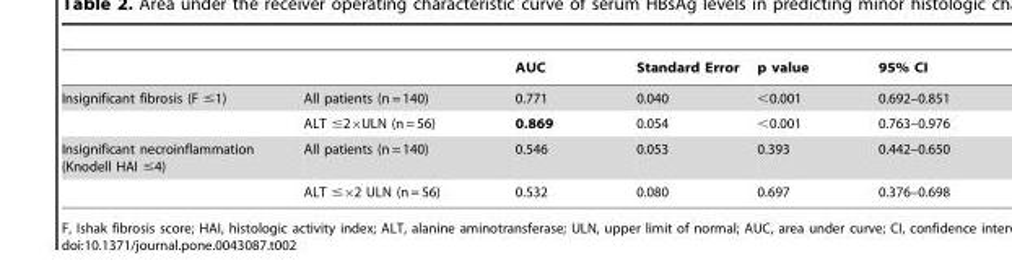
<table><thead><tr><td></td><td></td><td>AUC</td><td>Standard Error</td><td>p value</td><td>95% CI</td></tr></thead><tbody><tr><td rowspan="2">Insignificant fibrosis (F ≤1)</td><td>All patients (n = 140)</td><td>0.771</td><td>0.040</td><td>&lt;0.001</td><td>0.692–0.851</td></tr><tr><td>ALT ≤2×ULN (n = 56)</td><td>0.869</td><td>0.054</td><td>&lt;0.001</td><td>0.763–0.976</td></tr><tr><td rowspan="2">Insignificant necroinflammation (Knodell HAI ≤4)</td><td>All patients (n = 140)</td><td>0.546</td><td>0.053</td><td>0.393</td><td>0.442–0.650</td></tr><tr><td>ALT ≤×2 ULN (n = 56)</td><td>0.532</td><td>0.080</td><td>0.697</td><td>0.376–0.698</td></tr></tbody></table>